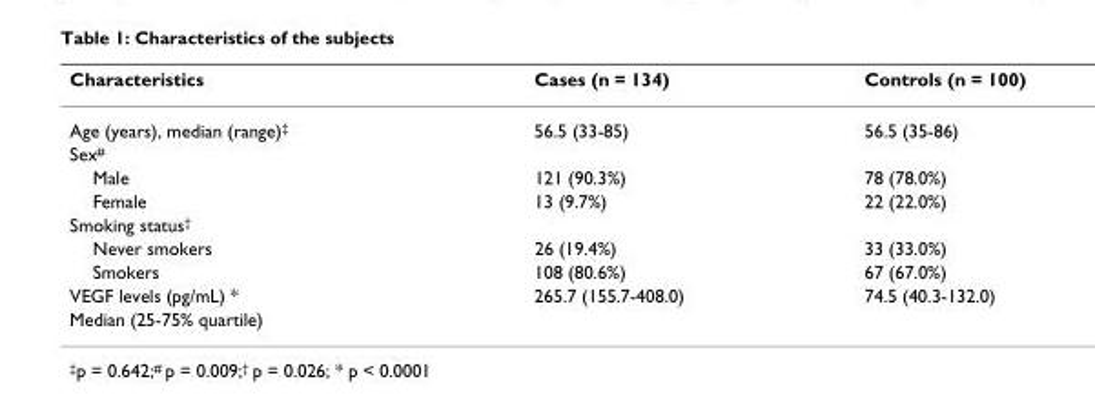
<table><thead><tr><td>Characteristics</td><td>Cases (n = 134)</td><td>Controls (n = 100)</td></tr></thead><tbody><tr><td>Age (years), median (range)<sup>‡</sup></td><td>56.5 (33-85)</td><td>56.5 (35-86)</td></tr><tr><td colspan="3">Sex<sup>#</sup></td></tr><tr><td>Male</td><td>121 (90.3%)</td><td>78 (78.0%)</td></tr><tr><td>Female</td><td>13 (9.7%)</td><td>22 (22.0%)</td></tr><tr><td colspan="3">Smoking status<sup>†</sup></td></tr><tr><td>Never smokers</td><td>26 (19.4%)</td><td>33 (33.0%)</td></tr><tr><td>Smokers</td><td>108 (80.6%)</td><td>67 (67.0%)</td></tr><tr><td>VEGF levels (pg/mL) *</td><td>265.7 (155.7-408.0)</td><td>74.5 (40.3-132.0)</td></tr><tr><td>Median (25-75% quartile)</td><td></td><td></td></tr></tbody></table>